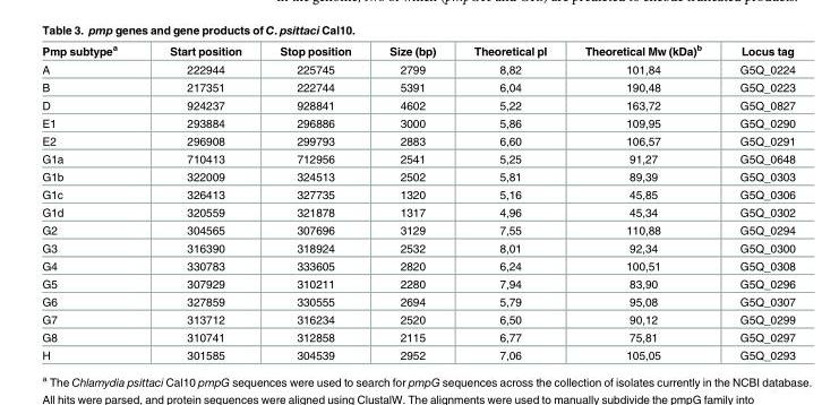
<table><thead><tr><td>Pmp subtype<sup>a</sup></td><td>Start position</td><td>Stop position</td><td>Size (bp)</td><td>Theoretical pI</td><td>Theoretical Mw (kDa)<sup>b</sup></td><td>Locus tag</td></tr></thead><tbody><tr><td>A</td><td>222944</td><td>225745</td><td>2799</td><td>8,82</td><td>101,84</td><td>G5Q_0224</td></tr><tr><td>B</td><td>217351</td><td>222744</td><td>5391</td><td>6,04</td><td>190,48</td><td>G5Q_0223</td></tr><tr><td>D</td><td>924237</td><td>928841</td><td>4602</td><td>5,22</td><td>163,72</td><td>G5Q_0827</td></tr><tr><td>E1</td><td>293884</td><td>296886</td><td>3000</td><td>5,86</td><td>109,95</td><td>G5Q_0290</td></tr><tr><td>E2</td><td>296908</td><td>299793</td><td>2883</td><td>6,60</td><td>106,57</td><td>G5Q_0291</td></tr><tr><td>G1a</td><td>710413</td><td>712956</td><td>2541</td><td>5,25</td><td>91,27</td><td>G5Q_0648</td></tr><tr><td>G1b</td><td>322009</td><td>324513</td><td>2502</td><td>5,81</td><td>89,39</td><td>G5Q_0303</td></tr><tr><td>G1c</td><td>326413</td><td>327735</td><td>1320</td><td>5,16</td><td>45,85</td><td>G5Q_0306</td></tr><tr><td>G1d</td><td>320559</td><td>321878</td><td>1317</td><td>4,96</td><td>45,34</td><td>G5Q_0302</td></tr><tr><td>G2</td><td>304565</td><td>307696</td><td>3129</td><td>7,55</td><td>110,88</td><td>G5Q_0294</td></tr><tr><td>G3</td><td>316390</td><td>318924</td><td>2532</td><td>8,01</td><td>92,34</td><td>G5Q_0300</td></tr><tr><td>G4</td><td>330783</td><td>333605</td><td>2820</td><td>6,24</td><td>100,51</td><td>G5Q_0308</td></tr><tr><td>G5</td><td>307929</td><td>310211</td><td>2280</td><td>7,94</td><td>83,90</td><td>G5Q_0296</td></tr><tr><td>G6</td><td>327859</td><td>330555</td><td>2694</td><td>5,79</td><td>95,08</td><td>G5Q_0307</td></tr><tr><td>G7</td><td>313712</td><td>316234</td><td>2520</td><td>6,50</td><td>90,12</td><td>G5Q_0299</td></tr><tr><td>G8</td><td>310741</td><td>312858</td><td>2115</td><td>6,77</td><td>75,81</td><td>G5Q_0297</td></tr><tr><td>H</td><td>301585</td><td>304539</td><td>2952</td><td>7,06</td><td>105,05</td><td>G5Q_0293</td></tr></tbody></table>